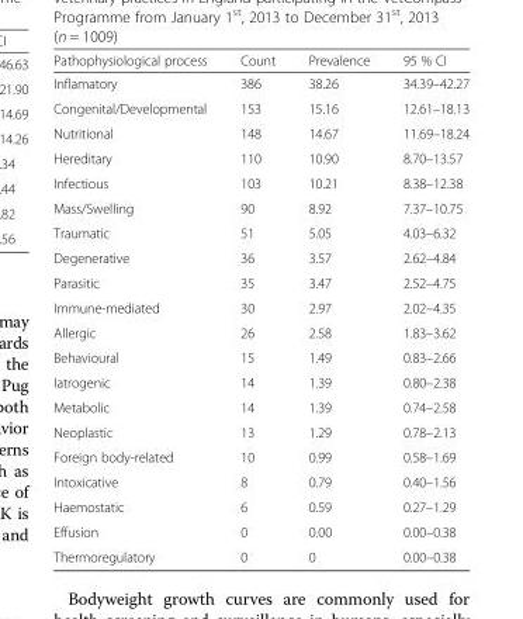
<table><thead><tr><td>Pathophysiological process</td><td>Count</td><td>Prevalence</td><td>95 % CI</td></tr></thead><tbody><tr><td>Inflamatory</td><td>386</td><td>38.26</td><td>34.39–42.27</td></tr><tr><td>Congenital/Developmental</td><td>153</td><td>15.16</td><td>12.61–18.13</td></tr><tr><td>Nutritional</td><td>148</td><td>14.67</td><td>11.69–18.24</td></tr><tr><td>Hereditary</td><td>110</td><td>10.90</td><td>8.70–13.57</td></tr><tr><td>Infectious</td><td>103</td><td>10.21</td><td>8.38–12.38</td></tr><tr><td>Mass/Swelling</td><td>90</td><td>8.92</td><td>7.37–10.75</td></tr><tr><td>Traumatic</td><td>51</td><td>5.05</td><td>4.03–6.32</td></tr><tr><td>Degenerative</td><td>36</td><td>3.57</td><td>2.62–4.84</td></tr><tr><td>Parasitic</td><td>35</td><td>3.47</td><td>2.52–4.75</td></tr><tr><td>Immune-mediated</td><td>30</td><td>2.97</td><td>2.02–4.35</td></tr><tr><td>Allergic</td><td>26</td><td>2.58</td><td>1.83–3.62</td></tr><tr><td>Behavioural</td><td>15</td><td>1.49</td><td>0.83–2.66</td></tr><tr><td>Iatrogenic</td><td>14</td><td>1.39</td><td>0.80–2.38</td></tr><tr><td>Metabolic</td><td>14</td><td>1.39</td><td>0.74–2.58</td></tr><tr><td>Neoplastic</td><td>13</td><td>1.29</td><td>0.78–2.13</td></tr><tr><td>Foreign body-related</td><td>10</td><td>0.99</td><td>0.58–1.69</td></tr><tr><td>Intoxicative</td><td>8</td><td>0.79</td><td>0.40–1.56</td></tr><tr><td>Haemostatic</td><td>6</td><td>0.59</td><td>0.27–1.29</td></tr><tr><td>Effusion</td><td>0</td><td>0.00</td><td>0.00–0.38</td></tr><tr><td>Thermoregulatory</td><td>0</td><td>0</td><td>0.00–0.38</td></tr></tbody></table>